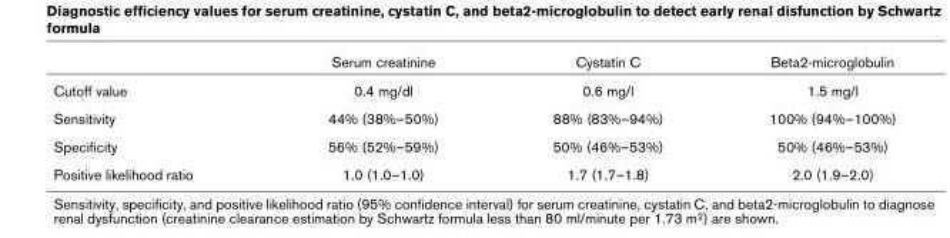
<table><thead><tr><td></td><td>Serum creatinine</td><td>Cystatin C</td><td>Beta2-microglobulin</td></tr></thead><tbody><tr><td>Cutoff value</td><td>0.4 mg/dl</td><td>0.6 mg/l</td><td>1.5 mg/l</td></tr><tr><td>Sensitivity</td><td>44% (38%–50%)</td><td>88% (83%–94%)</td><td>100% (94%–100%)</td></tr><tr><td>Specificity</td><td>56% (52%–59%)</td><td>50% (46%–53%)</td><td>50% (46%–53%)</td></tr><tr><td>Positive likelihood ratio</td><td>1.0 (1.0–1.0)</td><td>1.7 (1.7–1.8)</td><td>2.0 (1.9–2.0)</td></tr></tbody></table>